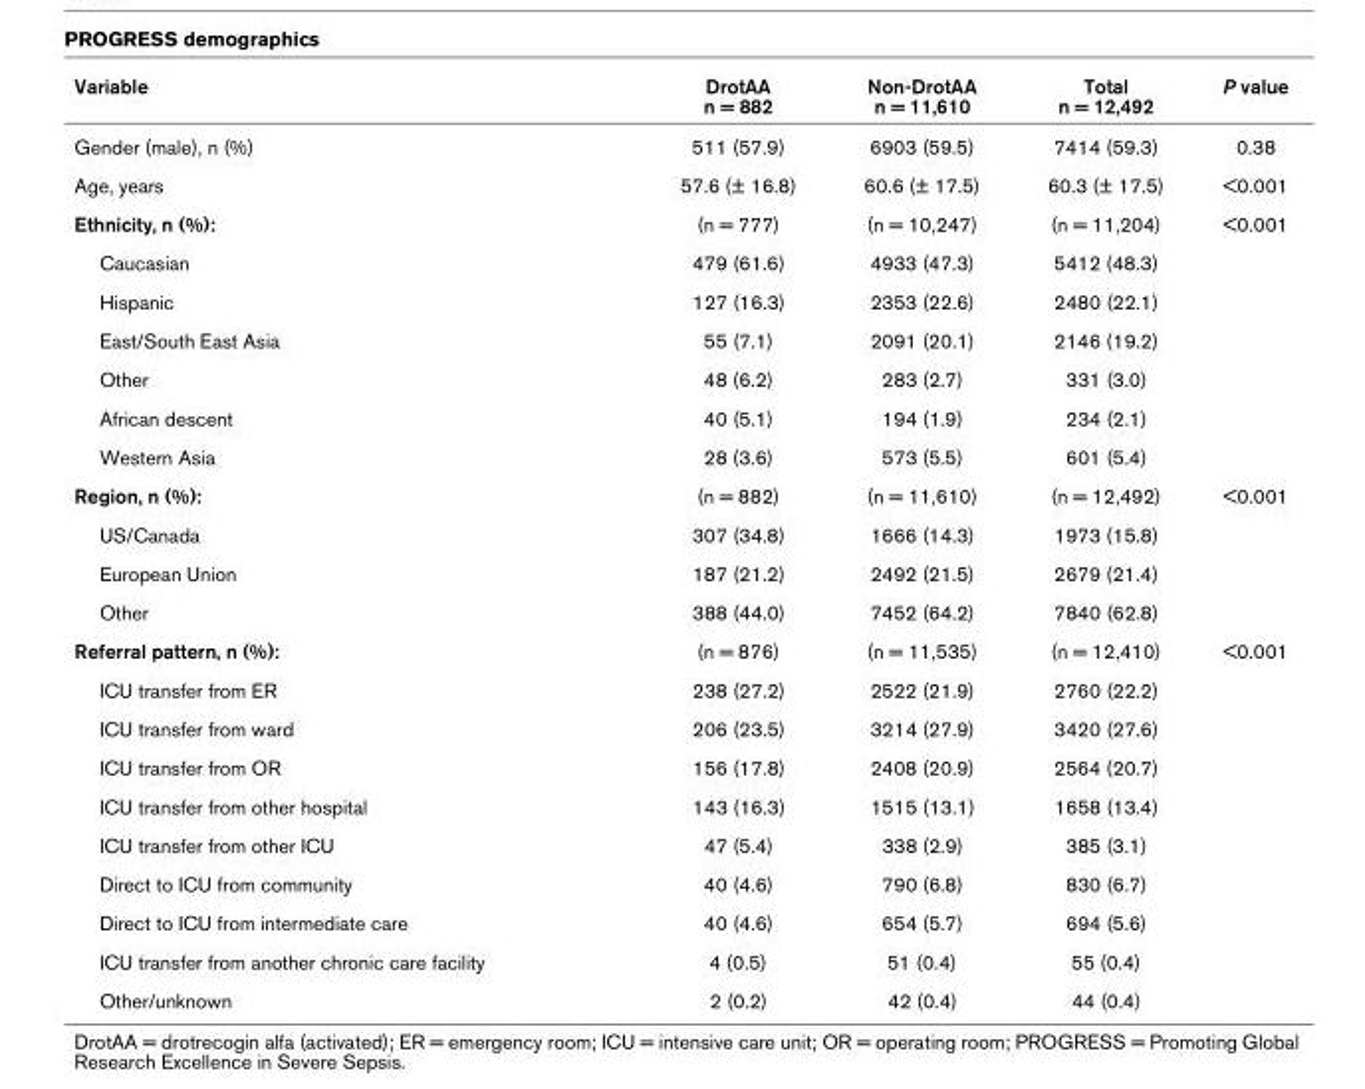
<table><thead><tr><td>Variable</td><td>DrotAA n = 882</td><td>Non-DrotAA n = 11,610</td><td>Total n = 12,492</td><td>P value</td></tr></thead><tbody><tr><td>Gender (male), n (%)</td><td>511 (57.9)</td><td>6903 (59.5)</td><td>7414 (59.3)</td><td>0.38</td></tr><tr><td>Age, years</td><td>57.6 (± 16.8)</td><td>60.6 (± 17.5)</td><td>60.3 (± 17.5)</td><td>&lt;0.001</td></tr><tr><td>Ethnicity, n (%):</td><td>(n = 777)</td><td>(n = 10,247)</td><td>(n = 11,204)</td><td>&lt;0.001</td></tr><tr><td>Caucasian</td><td>479 (61.6)</td><td>4933 (47.3)</td><td>5412 (48.3)</td><td></td></tr><tr><td>Hispanic</td><td>127 (16.3)</td><td>2353 (22.6)</td><td>2480 (22.1)</td><td></td></tr><tr><td>East/South East Asia</td><td>55 (7.1)</td><td>2091 (20.1)</td><td>2146 (19.2)</td><td></td></tr><tr><td>Other</td><td>48 (6.2)</td><td>283 (2.7)</td><td>331 (3.0)</td><td></td></tr><tr><td>African descent</td><td>40 (5.1)</td><td>194 (1.9)</td><td>234 (2.1)</td><td></td></tr><tr><td>Western Asia</td><td>28 (3.6)</td><td>573 (5.5)</td><td>601 (5.4)</td><td></td></tr><tr><td>Region, n (%):</td><td>(n = 882)</td><td>(n = 11,610)</td><td>(n = 12,492)</td><td>&lt;0.001</td></tr><tr><td>US/Canada</td><td>307 (34.8)</td><td>1666 (14.3)</td><td>1973 (15.8)</td><td></td></tr><tr><td>European Union</td><td>187 (21.2)</td><td>2492 (21.5)</td><td>2679 (21.4)</td><td></td></tr><tr><td>Other</td><td>388 (44.0)</td><td>7452 (64.2)</td><td>7840 (62.8)</td><td></td></tr><tr><td>Referral pattern, n (%):</td><td>(n = 876)</td><td>(n = 11,535)</td><td>(n = 12,410)</td><td>&lt;0.001</td></tr><tr><td>ICU transfer from ER</td><td>238 (27.2)</td><td>2522 (21.9)</td><td>2760 (22.2)</td><td></td></tr><tr><td>ICU transfer from ward</td><td>206 (23.5)</td><td>3214 (27.9)</td><td>3420 (27.6)</td><td></td></tr><tr><td>ICU transfer from OR</td><td>156 (17.8)</td><td>2408 (20.9)</td><td>2564 (20.7)</td><td></td></tr><tr><td>ICU transfer from other hospital</td><td>143 (16.3)</td><td>1515 (13.1)</td><td>1658 (13.4)</td><td></td></tr><tr><td>ICU transfer from other ICU</td><td>47 (5.4)</td><td>338 (2.9)</td><td>385 (3.1)</td><td></td></tr><tr><td>Direct to ICU from community</td><td>40 (4.6)</td><td>790 (6.8)</td><td>830 (6.7)</td><td></td></tr><tr><td>Direct to ICU from intermediate care</td><td>40 (4.6)</td><td>654 (5.7)</td><td>694 (5.6)</td><td></td></tr><tr><td>ICU transfer from another chronic care facility</td><td>4 (0.5)</td><td>51 (0.4)</td><td>55 (0.4)</td><td></td></tr><tr><td>Other/unknown</td><td>2 (0.2)</td><td>42 (0.4)</td><td>44 (0.4)</td><td></td></tr></tbody></table>